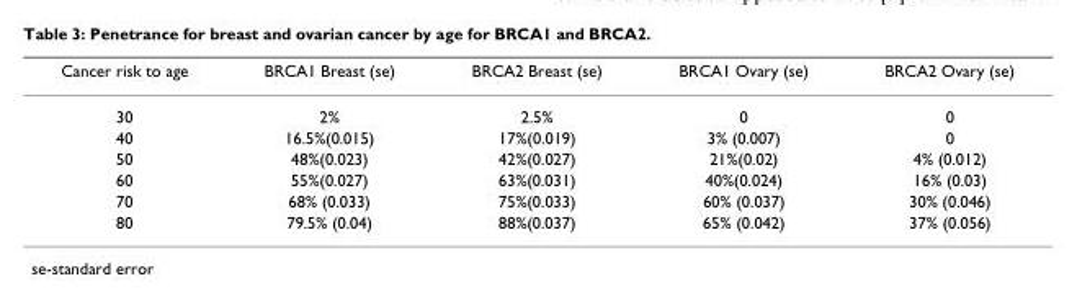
<table><thead><tr><td>Cancer risk to age</td><td>BRCA1 Breast (se)</td><td>BRCA2 Breast (se)</td><td>BRCA1 Ovary (se)</td><td>BRCA2 Ovary (se)</td></tr></thead><tbody><tr><td>30</td><td>2%</td><td>2.5%</td><td>0</td><td>0</td></tr><tr><td>40</td><td>16.5%(0.015)</td><td>17%(0.019)</td><td>3% (0.007)</td><td>0</td></tr><tr><td>50</td><td>48%(0.023)</td><td>42%(0.027)</td><td>21%(0.02)</td><td>4% (0.012)</td></tr><tr><td>60</td><td>55%(0.027)</td><td>63%(0.031)</td><td>40%(0.024)</td><td>16% (0.03)</td></tr><tr><td>70</td><td>68% (0.033)</td><td>75%(0.033)</td><td>60% (0.037)</td><td>30% (0.046)</td></tr><tr><td>80</td><td>79.5% (0.04)</td><td>88%(0.037)</td><td>65% (0.042)</td><td>37% (0.056)</td></tr></tbody></table>